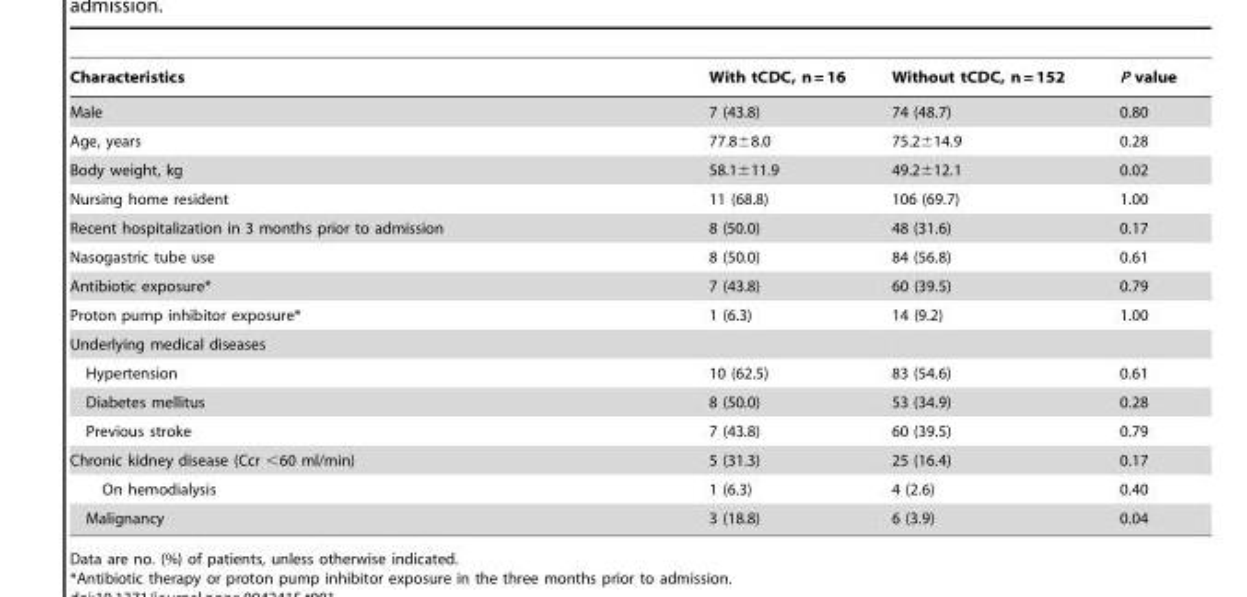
<table><thead><tr><td>Characteristics</td><td>With tCDC, n = 16</td><td>Without tCDC, n = 152</td><td>P value</td></tr></thead><tbody><tr><td>Male</td><td>7 (43.8)</td><td>74 (48.7)</td><td>0.80</td></tr><tr><td>Age, years</td><td>77.8±8.0</td><td>75.2±14.9</td><td>0.28</td></tr><tr><td>Body weight, kg</td><td>58.1±11.9</td><td>49.2±12.1</td><td>0.02</td></tr><tr><td>Nursing home resident</td><td>11 (68.8)</td><td>106 (69.7)</td><td>1.00</td></tr><tr><td>Recent hospitalization in 3 months prior to admission</td><td>8 (50.0)</td><td>48 (31.6)</td><td>0.17</td></tr><tr><td>Nasogastric tube use</td><td>8 (50.0)</td><td>84 (56.8)</td><td>0.61</td></tr><tr><td>Antibiotic exposure*</td><td>7 (43.8)</td><td>60 (39.5)</td><td>0.79</td></tr><tr><td>Proton pump inhibitor exposure*</td><td>1 (6.3)</td><td>14 (9.2)</td><td>1.00</td></tr><tr><td colspan="4">Underlying medical diseases</td></tr><tr><td>Hypertension</td><td>10 (62.5)</td><td>83 (54.6)</td><td>0.61</td></tr><tr><td>Diabetes mellitus</td><td>8 (50.0)</td><td>53 (34.9)</td><td>0.28</td></tr><tr><td>Previous stroke</td><td>7 (43.8)</td><td>60 (39.5)</td><td>0.79</td></tr><tr><td>Chronic kidney disease (Ccr &lt;60 ml/min)</td><td>5 (31.3)</td><td>25 (16.4)</td><td>0.17</td></tr><tr><td>On hemodialysis</td><td>1 (6.3)</td><td>4 (2.6)</td><td>0.40</td></tr><tr><td>Malignancy</td><td>3 (18.8)</td><td>6 (3.9)</td><td>0.04</td></tr></tbody></table>